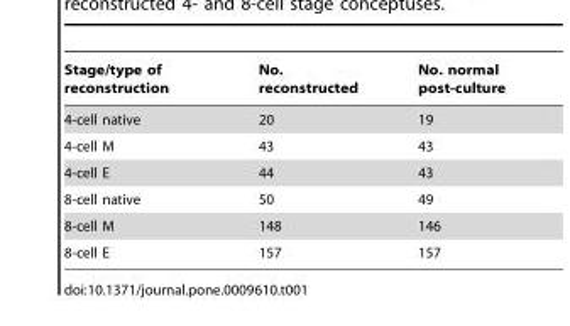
<table><thead><tr><td>Stage/type of reconstruction</td><td>No. reconstructed</td><td>No. normal post-culture</td></tr></thead><tbody><tr><td>4-cell native</td><td>20</td><td>19</td></tr><tr><td>4-cell M</td><td>43</td><td>43</td></tr><tr><td>4-cell E</td><td>44</td><td>43</td></tr><tr><td>8-cell native</td><td>50</td><td>49</td></tr><tr><td>8-cell M</td><td>148</td><td>146</td></tr><tr><td>8-cell E</td><td>157</td><td>157</td></tr></tbody></table>